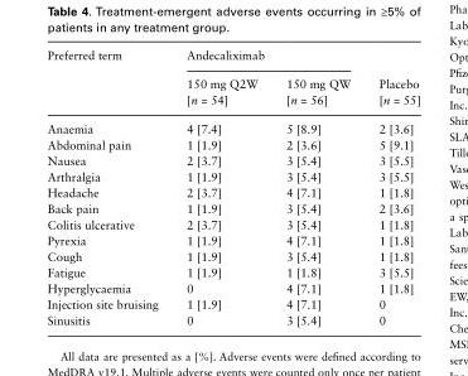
<table><thead><tr><td rowspan="2">Preferred term</td><td colspan="2">Andecaliximab</td><td rowspan="2">Placebo [n = 55]</td></tr><tr><td>150 mg Q2W [n = 54]</td><td>150 mg QW [n = 56]</td></tr></thead><tbody><tr><td>Anaemia</td><td>4 [7.4]</td><td>5 [8.9]</td><td>2 [3.6]</td></tr><tr><td>Abdominal pain</td><td>1 [1.9]</td><td>2 [3.6]</td><td>5 [9.1]</td></tr><tr><td>Nausea</td><td>2 [3.7]</td><td>3 [5.4]</td><td>3 [5.5]</td></tr><tr><td>Arthralgia</td><td>1 [1.9]</td><td>3 [5.4]</td><td>3 [5.5]</td></tr><tr><td>Headache</td><td>2 [3.7]</td><td>4 [7.1]</td><td>1 [1.8]</td></tr><tr><td>Back pain</td><td>1 [1.9]</td><td>3 [5.4]</td><td>2 [3.6]</td></tr><tr><td>Colitis ulcerative</td><td>2 [3.7]</td><td>3 [5.4]</td><td>1 [1.8]</td></tr><tr><td>Pyrexia</td><td>1 [1.9]</td><td>4 [7.1]</td><td>1 [1.8]</td></tr><tr><td>Cough</td><td>1 [1.9]</td><td>3 [5.4]</td><td>1 [1.8]</td></tr><tr><td>Fatigue</td><td>1 [1.9]</td><td>1 [1.8]</td><td>3 [5.5]</td></tr><tr><td>Hyperglycaemia</td><td>0</td><td>4 [7.1]</td><td>1 [1.8]</td></tr><tr><td>Injection site bruising</td><td>1 [1.9]</td><td>4 [7.1]</td><td>0</td></tr><tr><td>Sinusitis</td><td>0</td><td>3 [5.4]</td><td>0</td></tr></tbody></table>